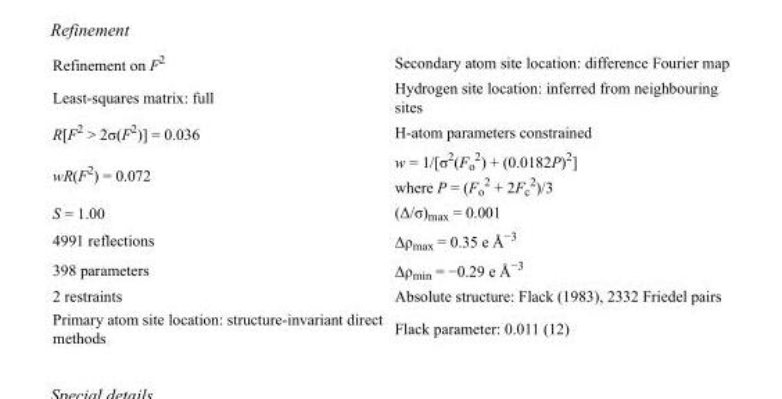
<table><tbody><tr><td>Refinement on F<sup>2</sup></td><td>Secondary atom site location: difference Fourier map</td></tr><tr><td>Least-squares matrix: full</td><td>Hydrogen site location: inferred from neighbouring sites</td></tr><tr><td>R[F<sup>2</sup> &gt; 2σ(F<sup>2</sup>)] = 0.036</td><td>H-atom parameters constrained</td></tr><tr><td>wR(F<sup>2</sup>) = 0.072</td><td>w = 1/[σ<sup>2</sup>(F<sub>o</sub> <sup>2</sup>) + (0.0182P)<sup>2</sup>] where P = (F<sub>o</sub> <sup>2</sup> + 2F<sub>c</sub> <sup>2</sup>)/3</td></tr><tr><td>S = 1.00</td><td>(Δ/σ)<sub>max</sub> = 0.001</td></tr><tr><td>4991 reflections</td><td>Δρ<sub>max</sub> = 0.35 e Å<sup>−3</sup></td></tr><tr><td>398 parameters</td><td>Δρ<sub>min</sub> = −0.29 e Å<sup>−3</sup></td></tr><tr><td>2 restraints</td><td>Absolute structure: Flack (1983), 2332 Friedel pairs</td></tr><tr><td>Primary atom site location: structure-invariant direct methods</td><td>Flack parameter: 0.011 (12)</td></tr></tbody></table>